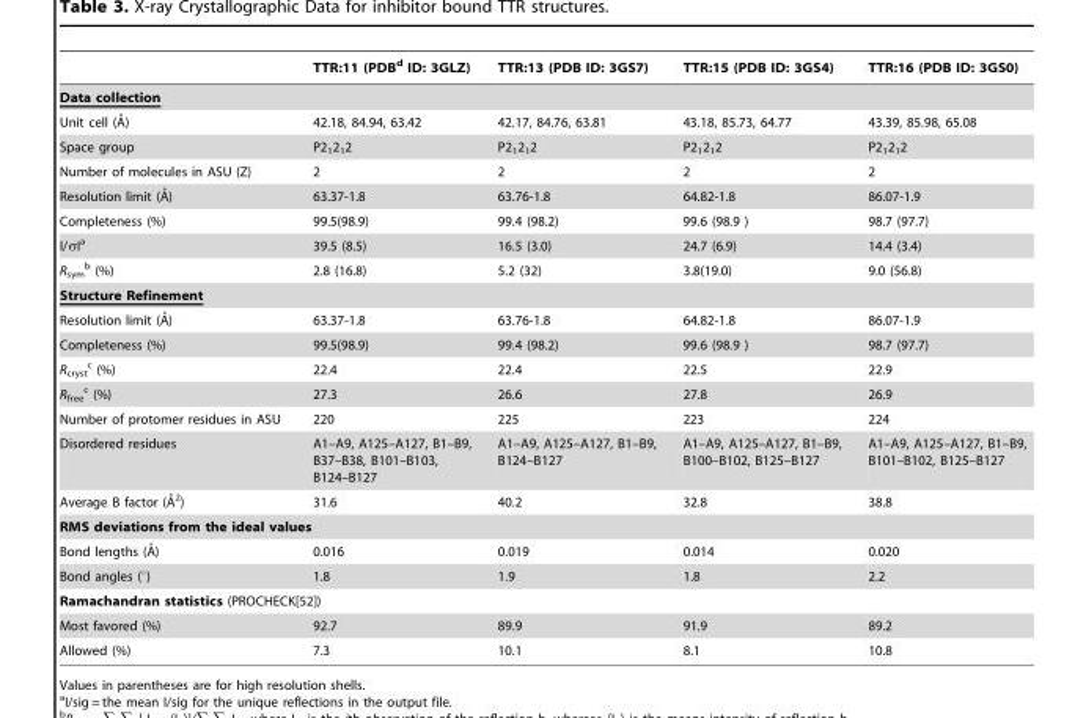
<table><thead><tr><td></td><td>TTR:11 (PDBd ID: 3GLZ)</td><td>TTR:13 (PDB ID: 3GS7)</td><td>TTR:15 (PDB ID: 3GS4)</td><td>TTR:16 (PDB ID: 3GS0)</td></tr></thead><tbody><tr><td colspan="5">Data collection</td></tr><tr><td>Unit cell (A˚)</td><td>42.18, 84.94, 63.42</td><td>42.17, 84.76, 63.81</td><td>43.18, 85.73, 64.77</td><td>43.39, 85.98, 65.08</td></tr><tr><td>Space group</td><td>P2<sub>1</sub>2<sub>1</sub>2</td><td>P2<sub>1</sub>2<sub>1</sub>2</td><td>P2<sub>1</sub>2<sub>1</sub>2</td><td>P2<sub>1</sub>2<sub>1</sub>2</td></tr><tr><td>Number of molecules in ASU (Z)</td><td>2</td><td>2</td><td>2</td><td>2</td></tr><tr><td>Resolution limit (A˚)</td><td>63.37-1.8</td><td>63.76-1.8</td><td>64.82-1.8</td><td>86.07-1.9</td></tr><tr><td>Completeness (%)</td><td>99.5(98.9)</td><td>99.4 (98.2)</td><td>99.6 (98.9 )</td><td>98.7 (97.7)</td></tr><tr><td>I/σI<sup>a</sup></td><td>39.5 (8.5)</td><td>16.5 (3.0)</td><td>24.7 (6.9)</td><td>14.4 (3.4)</td></tr><tr><td>R<sub>sym</sub> b (%)</td><td>2.8 (16.8)</td><td>5.2 (32)</td><td>3.8(19.0)</td><td>9.0 (56.8)</td></tr><tr><td colspan="5">Structure Refinement</td></tr><tr><td>Resolution limit (A˚)</td><td>63.37-1.8</td><td>63.76-1.8</td><td>64.82-1.8</td><td>86.07-1.9</td></tr><tr><td>Completeness (%)</td><td>99.5(98.9)</td><td>99.4 (98.2)</td><td>99.6 (98.9 )</td><td>98.7 (97.7)</td></tr><tr><td>R<sub>cryst</sub> c (%)</td><td>22.4</td><td>22.4</td><td>22.5</td><td>22.9</td></tr><tr><td>R<sub>free</sub> c (%)</td><td>27.3</td><td>26.6</td><td>27.8</td><td>26.9</td></tr><tr><td>Number of protomer residues in ASU</td><td>220</td><td>225</td><td>223</td><td>224</td></tr><tr><td>Disordered residues</td><td>A1–A9, A125–A127, B1–B9, B37–B38, B101–B103, B124–B127</td><td>A1–A9, A125–A127, B1–B9, B124–B127</td><td>A1–A9, A125–A127, B1–B9, B100–B102, B125–B127</td><td>A1–A9, A125–A127, B1–B9, B101–B102, B125–B127</td></tr><tr><td>Average B factor (A˚2)</td><td>31.6</td><td>40.2</td><td>32.8</td><td>38.8</td></tr><tr><td colspan="5">RMS deviations from the ideal values</td></tr><tr><td>Bond lengths (A˚)</td><td>0.016</td><td>0.019</td><td>0.014</td><td>0.020</td></tr><tr><td>Bond angles (°)</td><td>1.8</td><td>1.9</td><td>1.8</td><td>2.2</td></tr><tr><td colspan="5">Ramachandran statistics (PROCHECK[52])</td></tr><tr><td>Most favored (%)</td><td>92.7</td><td>89.9</td><td>91.9</td><td>89.2</td></tr><tr><td>Allowed (%)</td><td>7.3</td><td>10.1</td><td>8.1</td><td>10.8</td></tr></tbody></table>